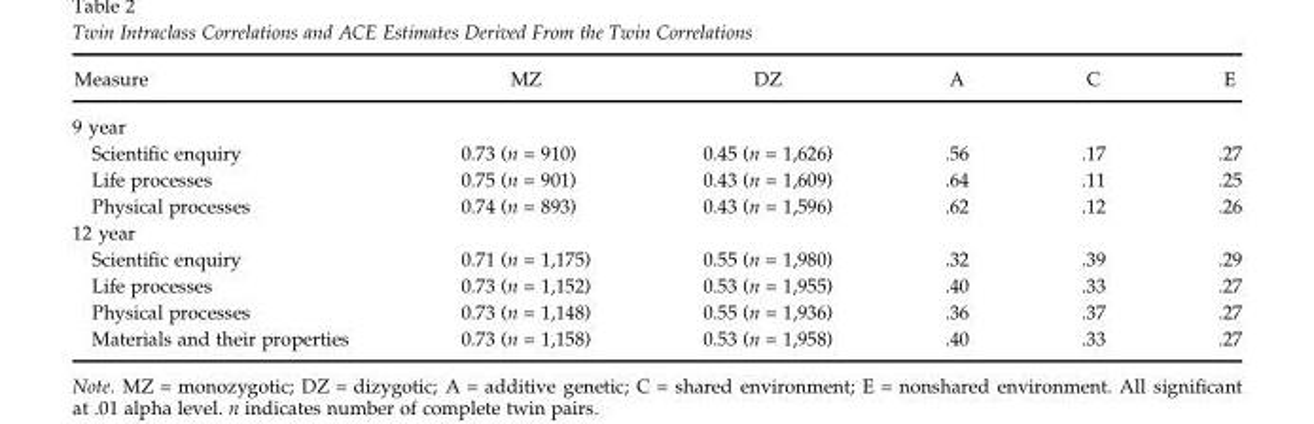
<table><thead><tr><td>Measure</td><td>MZ</td><td>DZ</td><td>A</td><td>C</td><td>E</td></tr></thead><tbody><tr><td colspan="6">9 year</td></tr><tr><td>Scientific enquiry</td><td>0.73 (n = 910)</td><td>0.45 (n = 1,626)</td><td>.56</td><td>.17</td><td>.27</td></tr><tr><td>Life processes</td><td>0.75 (n = 901)</td><td>0.43 (n = 1,609)</td><td>.64</td><td>.11</td><td>.25</td></tr><tr><td>Physical processes</td><td>0.74 (n = 893)</td><td>0.43 (n = 1,596)</td><td>.62</td><td>.12</td><td>.26</td></tr><tr><td colspan="6">12 year</td></tr><tr><td>Scientific enquiry</td><td>0.71 (n = 1,175)</td><td>0.55 (n = 1,980)</td><td>.32</td><td>.39</td><td>.29</td></tr><tr><td>Life processes</td><td>0.73 (n = 1,152)</td><td>0.53 (n = 1,955)</td><td>.40</td><td>.33</td><td>.27</td></tr><tr><td>Physical processes</td><td>0.73 (n = 1,148)</td><td>0.55 (n = 1,936)</td><td>.36</td><td>.37</td><td>.27</td></tr><tr><td>Materials and their properties</td><td>0.73 (n = 1,158)</td><td>0.53 (n = 1,958)</td><td>.40</td><td>.33</td><td>.27</td></tr></tbody></table>